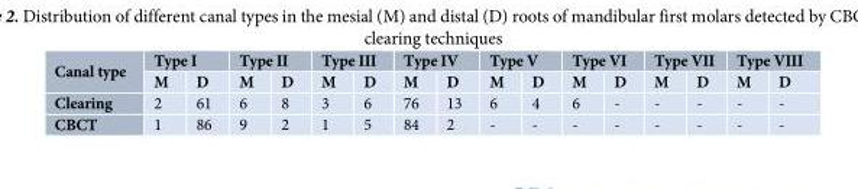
<table><thead><tr><td rowspan="2">Canal type</td><td colspan="2">Type I</td><td colspan="2">Type II</td><td colspan="2">Type III</td><td colspan="2">Type IV</td><td colspan="2">Type V</td><td colspan="2">Type VI</td><td colspan="2">Type VII</td><td colspan="2">Type VIII</td></tr><tr><td>M</td><td>D</td><td>M</td><td>D</td><td>M</td><td>D</td><td>M</td><td>D</td><td>M</td><td>D</td><td>M</td><td>D</td><td>M</td><td>D</td><td>M</td><td>D</td></tr></thead><tbody><tr><td>Clearing</td><td>2</td><td>61</td><td>6</td><td>8</td><td>3</td><td>6</td><td>76</td><td>13</td><td>6</td><td>4</td><td>6</td><td>-</td><td>-</td><td>-</td><td>-</td><td>-</td></tr><tr><td>CBCT</td><td>1</td><td>86</td><td>9</td><td>2</td><td>1</td><td>5</td><td>84</td><td>2</td><td>-</td><td>-</td><td>-</td><td>-</td><td>-</td><td>-</td><td>-</td><td>-</td></tr></tbody></table>